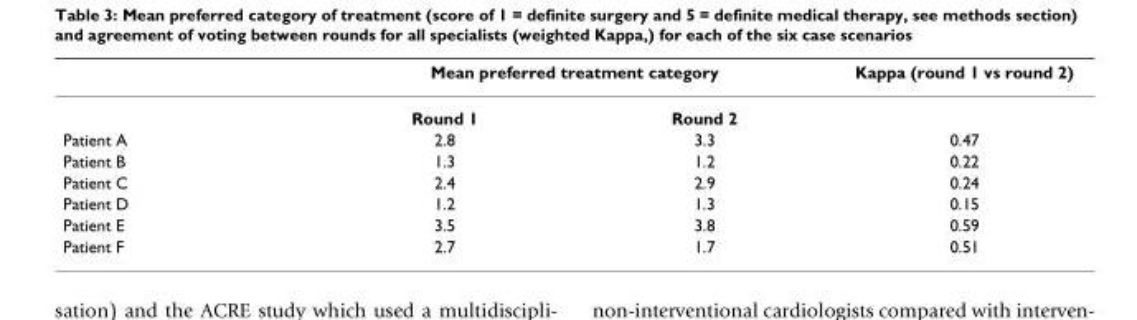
<table><thead><tr><td rowspan="2"></td><td colspan="2">Mean preferred treatment category</td><td rowspan="2">Kappa (round 1 vs round 2)</td></tr><tr><td>Round 1</td><td>Round 2</td></tr></thead><tbody><tr><td>Patient A</td><td>2.8</td><td>3.3</td><td>0.47</td></tr><tr><td>Patient B</td><td>1.3</td><td>1.2</td><td>0.22</td></tr><tr><td>Patient C</td><td>2.4</td><td>2.9</td><td>0.24</td></tr><tr><td>Patient D</td><td>1.2</td><td>1.3</td><td>0.15</td></tr><tr><td>Patient E</td><td>3.5</td><td>3.8</td><td>0.59</td></tr><tr><td>Patient F</td><td>2.7</td><td>1.7</td><td>0.51</td></tr></tbody></table>